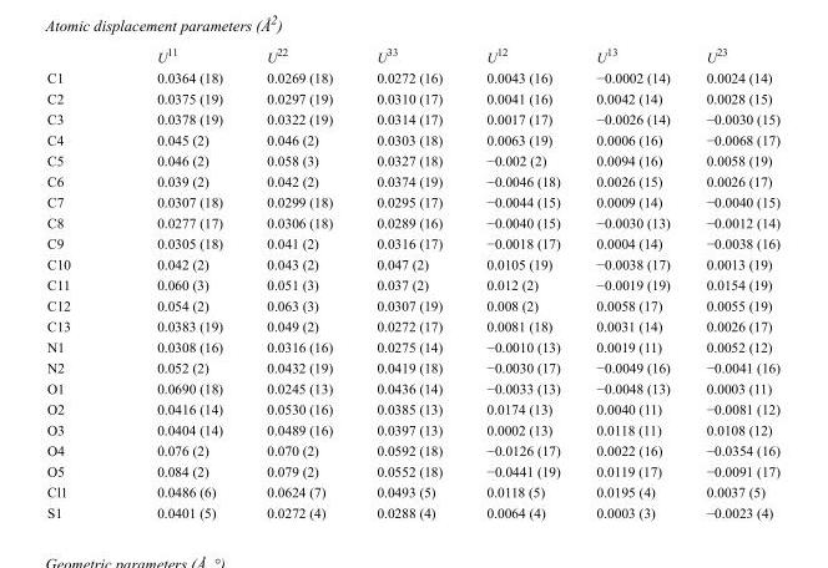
<table><thead><tr><td></td><td>U<sup>11</sup></td><td>U<sup>22</sup></td><td>U<sup>33</sup></td><td>U<sup>12</sup></td><td>U<sup>13</sup></td><td>U<sup>23</sup></td></tr></thead><tbody><tr><td>C1</td><td>0.0364 (18)</td><td>0.0269 (18)</td><td>0.0272 (16)</td><td>0.0043 (16)</td><td>−0.0002 (14)</td><td>0.0024 (14)</td></tr><tr><td>C2</td><td>0.0375 (19)</td><td>0.0297 (19)</td><td>0.0310 (17)</td><td>0.0041 (16)</td><td>0.0042 (14)</td><td>0.0028 (15)</td></tr><tr><td>C3</td><td>0.0378 (19)</td><td>0.0322 (19)</td><td>0.0314 (17)</td><td>0.0017 (17)</td><td>−0.0026 (14)</td><td>−0.0030 (15)</td></tr><tr><td>C4</td><td>0.045 (2)</td><td>0.046 (2)</td><td>0.0303 (18)</td><td>0.0063 (19)</td><td>0.0006 (16)</td><td>−0.0068 (17)</td></tr><tr><td>C5</td><td>0.046 (2)</td><td>0.058 (3)</td><td>0.0327 (18)</td><td>−0.002 (2)</td><td>0.0094 (16)</td><td>0.0058 (19)</td></tr><tr><td>C6</td><td>0.039 (2)</td><td>0.042 (2)</td><td>0.0374 (19)</td><td>−0.0046 (18)</td><td>0.0026 (15)</td><td>0.0026 (17)</td></tr><tr><td>C7</td><td>0.0307 (18)</td><td>0.0299 (18)</td><td>0.0295 (17)</td><td>−0.0044 (15)</td><td>0.0009 (14)</td><td>−0.0040 (15)</td></tr><tr><td>C8</td><td>0.0277 (17)</td><td>0.0306 (18)</td><td>0.0289 (16)</td><td>−0.0040 (15)</td><td>−0.0030 (13)</td><td>−0.0012 (14)</td></tr><tr><td>C9</td><td>0.0305 (18)</td><td>0.041 (2)</td><td>0.0316 (17)</td><td>−0.0018 (17)</td><td>0.0004 (14)</td><td>−0.0038 (16)</td></tr><tr><td>C10</td><td>0.042 (2)</td><td>0.043 (2)</td><td>0.047 (2)</td><td>0.0105 (19)</td><td>−0.0038 (17)</td><td>0.0013 (19)</td></tr><tr><td>C11</td><td>0.060 (3)</td><td>0.051 (3)</td><td>0.037 (2)</td><td>0.012 (2)</td><td>−0.0019 (19)</td><td>0.0154 (19)</td></tr><tr><td>C12</td><td>0.054 (2)</td><td>0.063 (3)</td><td>0.0307 (19)</td><td>0.008 (2)</td><td>0.0058 (17)</td><td>0.0055 (19)</td></tr><tr><td>C13</td><td>0.0383 (19)</td><td>0.049 (2)</td><td>0.0272 (17)</td><td>0.0081 (18)</td><td>0.0031 (14)</td><td>0.0026 (17)</td></tr><tr><td>N1</td><td>0.0308 (16)</td><td>0.0316 (16)</td><td>0.0275 (14)</td><td>−0.0010 (13)</td><td>0.0019 (11)</td><td>0.0052 (12)</td></tr><tr><td>N2</td><td>0.052 (2)</td><td>0.0432 (19)</td><td>0.0419 (18)</td><td>−0.0030 (17)</td><td>−0.0049 (16)</td><td>−0.0041 (16)</td></tr><tr><td>O1</td><td>0.0690 (18)</td><td>0.0245 (13)</td><td>0.0436 (14)</td><td>−0.0033 (13)</td><td>−0.0048 (13)</td><td>0.0003 (11)</td></tr><tr><td>O2</td><td>0.0416 (14)</td><td>0.0530 (16)</td><td>0.0385 (13)</td><td>0.0174 (13)</td><td>0.0040 (11)</td><td>−0.0081 (12)</td></tr><tr><td>O3</td><td>0.0404 (14)</td><td>0.0489 (16)</td><td>0.0397 (13)</td><td>0.0002 (13)</td><td>0.0118 (11)</td><td>0.0108 (12)</td></tr><tr><td>O4</td><td>0.076 (2)</td><td>0.070 (2)</td><td>0.0592 (18)</td><td>−0.0126 (17)</td><td>0.0022 (16)</td><td>−0.0354 (16)</td></tr><tr><td>O5</td><td>0.084 (2)</td><td>0.079 (2)</td><td>0.0552 (18)</td><td>−0.0441 (19)</td><td>0.0119 (17)</td><td>−0.0091 (17)</td></tr><tr><td>Cl1</td><td>0.0486 (6)</td><td>0.0624 (7)</td><td>0.0493 (5)</td><td>0.0118 (5)</td><td>0.0195 (4)</td><td>0.0037 (5)</td></tr><tr><td>S1</td><td>0.0401 (5)</td><td>0.0272 (4)</td><td>0.0288 (4)</td><td>0.0064 (4)</td><td>0.0003 (3)</td><td>−0.0023 (4)</td></tr></tbody></table>